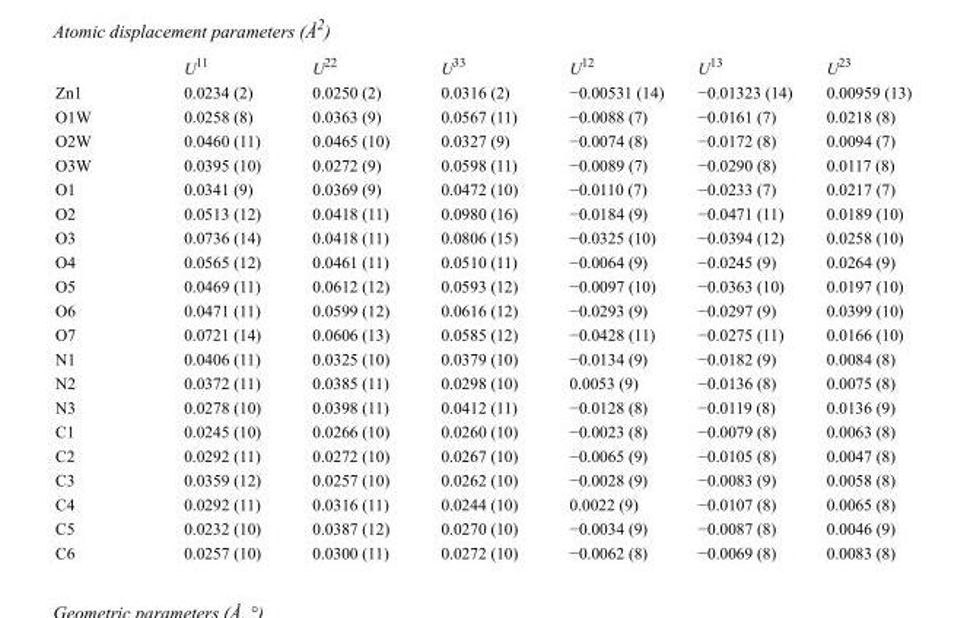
<table><thead><tr><td></td><td>U<sup>11</sup></td><td>U<sup>22</sup></td><td>U<sup>33</sup></td><td>U<sup>12</sup></td><td>U<sup>13</sup></td><td>U<sup>23</sup></td></tr></thead><tbody><tr><td>Zn1</td><td>0.0234 (2)</td><td>0.0250 (2)</td><td>0.0316 (2)</td><td>−0.00531 (14)</td><td>−0.01323 (14)</td><td>0.00959 (13)</td></tr><tr><td>O1W</td><td>0.0258 (8)</td><td>0.0363 (9)</td><td>0.0567 (11)</td><td>−0.0088 (7)</td><td>−0.0161 (7)</td><td>0.0218 (8)</td></tr><tr><td>O2W</td><td>0.0460 (11)</td><td>0.0465 (10)</td><td>0.0327 (9)</td><td>−0.0074 (8)</td><td>−0.0172 (8)</td><td>0.0094 (7)</td></tr><tr><td>O3W</td><td>0.0395 (10)</td><td>0.0272 (9)</td><td>0.0598 (11)</td><td>−0.0089 (7)</td><td>−0.0290 (8)</td><td>0.0117 (8)</td></tr><tr><td>O1</td><td>0.0341 (9)</td><td>0.0369 (9)</td><td>0.0472 (10)</td><td>−0.0110 (7)</td><td>−0.0233 (7)</td><td>0.0217 (7)</td></tr><tr><td>O2</td><td>0.0513 (12)</td><td>0.0418 (11)</td><td>0.0980 (16)</td><td>−0.0184 (9)</td><td>−0.0471 (11)</td><td>0.0189 (10)</td></tr><tr><td>O3</td><td>0.0736 (14)</td><td>0.0418 (11)</td><td>0.0806 (15)</td><td>−0.0325 (10)</td><td>−0.0394 (12)</td><td>0.0258 (10)</td></tr><tr><td>O4</td><td>0.0565 (12)</td><td>0.0461 (11)</td><td>0.0510 (11)</td><td>−0.0064 (9)</td><td>−0.0245 (9)</td><td>0.0264 (9)</td></tr><tr><td>O5</td><td>0.0469 (11)</td><td>0.0612 (12)</td><td>0.0593 (12)</td><td>−0.0097 (10)</td><td>−0.0363 (10)</td><td>0.0197 (10)</td></tr><tr><td>O6</td><td>0.0471 (11)</td><td>0.0599 (12)</td><td>0.0616 (12)</td><td>−0.0293 (9)</td><td>−0.0297 (9)</td><td>0.0399 (10)</td></tr><tr><td>O7</td><td>0.0721 (14)</td><td>0.0606 (13)</td><td>0.0585 (12)</td><td>−0.0428 (11)</td><td>−0.0275 (11)</td><td>0.0166 (10)</td></tr><tr><td>N1</td><td>0.0406 (11)</td><td>0.0325 (10)</td><td>0.0379 (10)</td><td>−0.0134 (9)</td><td>−0.0182 (9)</td><td>0.0084 (8)</td></tr><tr><td>N2</td><td>0.0372 (11)</td><td>0.0385 (11)</td><td>0.0298 (10)</td><td>0.0053 (9)</td><td>−0.0136 (8)</td><td>0.0075 (8)</td></tr><tr><td>N3</td><td>0.0278 (10)</td><td>0.0398 (11)</td><td>0.0412 (11)</td><td>−0.0128 (8)</td><td>−0.0119 (8)</td><td>0.0136 (9)</td></tr><tr><td>C1</td><td>0.0245 (10)</td><td>0.0266 (10)</td><td>0.0260 (10)</td><td>−0.0023 (8)</td><td>−0.0079 (8)</td><td>0.0063 (8)</td></tr><tr><td>C2</td><td>0.0292 (11)</td><td>0.0272 (10)</td><td>0.0267 (10)</td><td>−0.0065 (9)</td><td>−0.0105 (8)</td><td>0.0047 (8)</td></tr><tr><td>C3</td><td>0.0359 (12)</td><td>0.0257 (10)</td><td>0.0262 (10)</td><td>−0.0028 (9)</td><td>−0.0083 (9)</td><td>0.0058 (8)</td></tr><tr><td>C4</td><td>0.0292 (11)</td><td>0.0316 (11)</td><td>0.0244 (10)</td><td>0.0022 (9)</td><td>−0.0107 (8)</td><td>0.0065 (8)</td></tr><tr><td>C5</td><td>0.0232 (10)</td><td>0.0387 (12)</td><td>0.0270 (10)</td><td>−0.0034 (9)</td><td>−0.0087 (8)</td><td>0.0046 (9)</td></tr><tr><td>C6</td><td>0.0257 (10)</td><td>0.0300 (11)</td><td>0.0272 (10)</td><td>−0.0062 (8)</td><td>−0.0069 (8)</td><td>0.0083 (8)</td></tr></tbody></table>